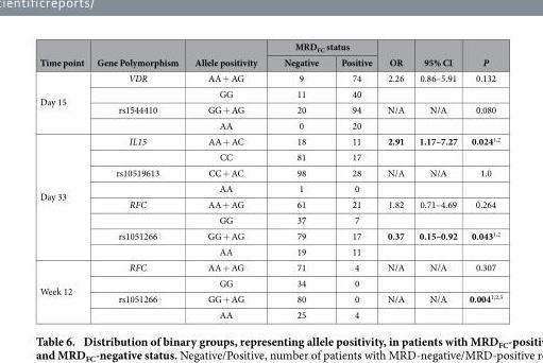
<table><thead><tr><td rowspan="2">Time point</td><td rowspan="2">Gene Polymorphism</td><td rowspan="2">Allele positivity</td><td colspan="2">MRD<sub>FC</sub> status</td><td rowspan="2">OR</td><td rowspan="2">95% CI</td><td rowspan="2">P</td></tr><tr><td>Negative</td><td>Positive</td></tr></thead><tbody><tr><td rowspan="4">Day 15</td><td>VDR</td><td>AA + AG</td><td>9</td><td>74</td><td>2.26</td><td>0.86–5.91</td><td>0.132</td></tr><tr><td></td><td>GG</td><td>11</td><td>40</td><td></td><td></td><td></td></tr><tr><td>rs1544410</td><td>GG + AG</td><td>20</td><td>94</td><td>N/A</td><td>N/A</td><td>0.080</td></tr><tr><td></td><td>AA</td><td>0</td><td>20</td><td></td><td></td><td></td></tr><tr><td rowspan="8">Day 33</td><td>IL15</td><td>AA + AC</td><td>18</td><td>11</td><td>2.91</td><td>1.17–7.27</td><td>0.024<sup>1,2</sup></td></tr><tr><td></td><td>CC</td><td>81</td><td>17</td><td></td><td></td><td></td></tr><tr><td>rs10519613</td><td>CC + AC</td><td>98</td><td>28</td><td>N/A</td><td>N/A</td><td>1.0</td></tr><tr><td></td><td>AA</td><td>1</td><td>0</td><td></td><td></td><td></td></tr><tr><td>RFC</td><td>AA + AG</td><td>61</td><td>21</td><td>1.82</td><td>0.71–4.69</td><td>0.264</td></tr><tr><td></td><td>GG</td><td>37</td><td>7</td><td></td><td></td><td></td></tr><tr><td>rs1051266</td><td>GG + AG</td><td>79</td><td>17</td><td>0.37</td><td>0.15–0.92</td><td>0.043<sup>1,2</sup></td></tr><tr><td></td><td>AA</td><td>19</td><td>11</td><td></td><td></td><td></td></tr><tr><td rowspan="4">Week 12</td><td>RFC</td><td>AA + AG</td><td>71</td><td>4</td><td>N/A</td><td>N/A</td><td>0.307</td></tr><tr><td></td><td>GG</td><td>34</td><td>0</td><td></td><td></td><td></td></tr><tr><td>rs1051266</td><td>GG + AG</td><td>80</td><td>0</td><td>N/A</td><td>N/A</td><td>0.004<sup>1,2,3</sup></td></tr><tr><td></td><td>AA</td><td>25</td><td>4</td><td></td><td></td><td></td></tr></tbody></table>